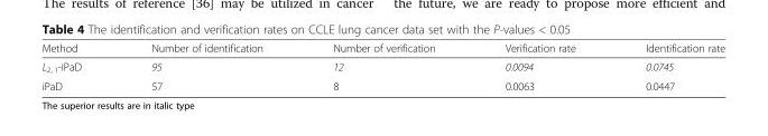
<table><thead><tr><td>Method</td><td>Number of identification</td><td>Number of verification</td><td>Verification rate</td><td>Identification rate</td></tr></thead><tbody><tr><td>L<sub>2, 1</sub>-iPaD</td><td>95</td><td>12</td><td>0.0094</td><td>0.0745</td></tr><tr><td>iPaD</td><td>57</td><td>8</td><td>0.0063</td><td>0.0447</td></tr></tbody></table>